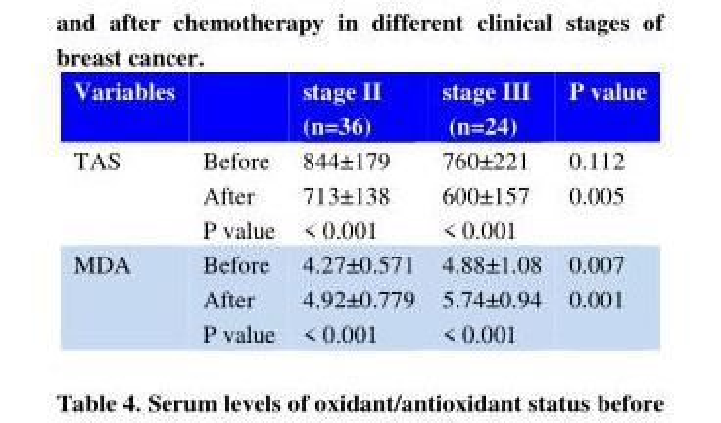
<table><thead><tr><td>Variables</td><td></td><td>stage II (n=36)</td><td>stage III (n=24)</td><td>P value</td></tr></thead><tbody><tr><td rowspan="3">TAS</td><td>Before</td><td>844±179</td><td>760±221</td><td>0.112</td></tr><tr><td>After</td><td>713±138</td><td>600±157</td><td>0.005</td></tr><tr><td>P value</td><td>&lt; 0.001</td><td>&lt; 0.001</td><td></td></tr><tr><td rowspan="3">MDA</td><td>Before</td><td>4.27±0.571</td><td>4.88±1.08</td><td>0.007</td></tr><tr><td>After</td><td>4.92±0.779</td><td>5.74±0.94</td><td>0.001</td></tr><tr><td>P value</td><td>&lt; 0.001</td><td>&lt; 0.001</td><td></td></tr></tbody></table>